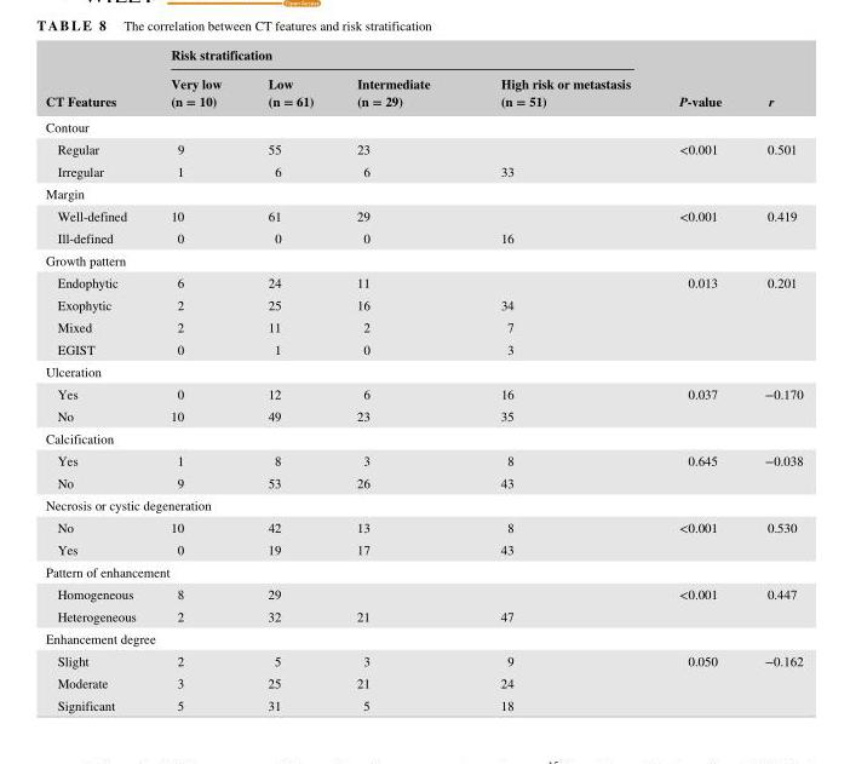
<table><thead><tr><td rowspan="2">CT Features</td><td colspan="4">Risk stratification</td><td rowspan="2">P- value</td><td rowspan="2">r</td></tr><tr><td>Very low (n = 10)</td><td>Low (n = 61)</td><td>Intermediate (n = 29)</td><td>High risk or metastasis (n = 51)</td></tr></thead><tbody><tr><td colspan="7">Contour</td></tr><tr><td>Regular</td><td>9</td><td>55</td><td>23</td><td></td><td rowspan="2">&lt;0.001</td><td rowspan="2">0.501</td></tr><tr><td>Irregular</td><td>1</td><td>6</td><td>6</td><td>33</td></tr><tr><td colspan="7">Margin</td></tr><tr><td>Well- defined</td><td>10</td><td>61</td><td>29</td><td></td><td rowspan="2">&lt;0.001</td><td rowspan="2">0.419</td></tr><tr><td>Ill- defined</td><td>0</td><td>0</td><td>0</td><td>16</td></tr><tr><td colspan="7">Growth pattern</td></tr><tr><td>Endophytic</td><td>6</td><td>24</td><td>11</td><td></td><td rowspan="4">0.013</td><td rowspan="4">0.201</td></tr><tr><td>Exophytic</td><td>2</td><td>25</td><td>16</td><td>34</td></tr><tr><td>Mixed</td><td>2</td><td>11</td><td>2</td><td>7</td></tr><tr><td>EGIST</td><td>0</td><td>1</td><td>0</td><td>3</td></tr><tr><td colspan="7">Ulceration</td></tr><tr><td>Yes</td><td>0</td><td>12</td><td>6</td><td>16</td><td rowspan="2">0.037</td><td rowspan="2">−0.170</td></tr><tr><td>No</td><td>10</td><td>49</td><td>23</td><td>35</td></tr><tr><td colspan="7">Calcification</td></tr><tr><td>Yes</td><td>1</td><td>8</td><td>3</td><td>8</td><td rowspan="2">0.645</td><td rowspan="2">−0.038</td></tr><tr><td>No</td><td>9</td><td>53</td><td>26</td><td>43</td></tr><tr><td colspan="7">Necrosis or cystic degeneration</td></tr><tr><td>No</td><td>10</td><td>42</td><td>13</td><td>8</td><td rowspan="2">&lt;0.001</td><td rowspan="2">0.530</td></tr><tr><td>Yes</td><td>0</td><td>19</td><td>17</td><td>43</td></tr><tr><td colspan="7">Pattern of enhancement</td></tr><tr><td>Homogeneous</td><td>8</td><td>29</td><td></td><td></td><td rowspan="2">&lt;0.001</td><td rowspan="2">0.447</td></tr><tr><td>Heterogeneous</td><td>2</td><td>32</td><td>21</td><td>47</td></tr><tr><td colspan="7">Enhancement degree</td></tr><tr><td>Slight</td><td>2</td><td>5</td><td>3</td><td>9</td><td rowspan="3">0.050</td><td rowspan="3">−0.162</td></tr><tr><td>Moderate</td><td>3</td><td>25</td><td>21</td><td>24</td></tr><tr><td>Significant</td><td>5</td><td>31</td><td>5</td><td>18</td></tr></tbody></table>